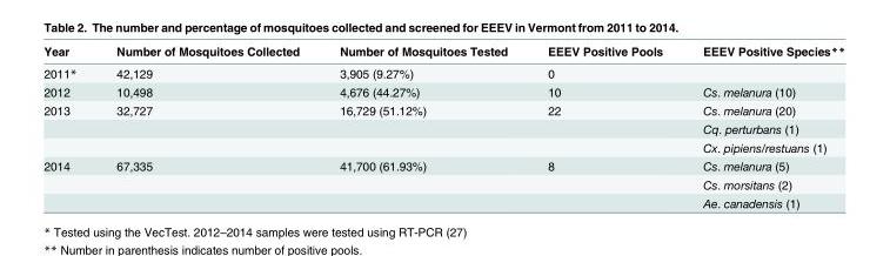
<table><thead><tr><td>Year</td><td>Number of Mosquitoes Collected</td><td>Number of Mosquitoes Tested</td><td>EEEV Positive Pools</td><td>EEEV Positive Species**</td></tr></thead><tbody><tr><td>2011*</td><td>42,129</td><td>3,905 (9.27%)</td><td>0</td><td></td></tr><tr><td>2012</td><td>10,498</td><td>4,676 (44.27%)</td><td>10</td><td>Cs. melanura (10)</td></tr><tr><td rowspan="3">2013</td><td>32,727</td><td>16,729 (51.12%)</td><td>22</td><td>Cs. melanura (20)</td></tr><tr><td></td><td></td><td></td><td>Cq. perturbans (1)</td></tr><tr><td></td><td></td><td></td><td>Cx. pipiens/restuans (1)</td></tr><tr><td rowspan="3">2014</td><td>67,335</td><td>41,700 (61.93%)</td><td>8</td><td>Cs. melanura (5)</td></tr><tr><td></td><td></td><td></td><td>Cs. morsitans (2)</td></tr><tr><td></td><td></td><td></td><td>Ae. canadensis (1)</td></tr></tbody></table>